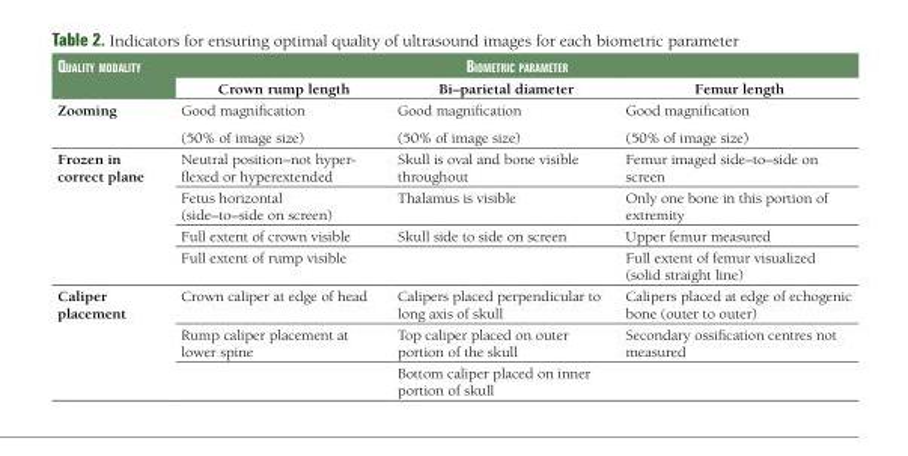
<table><thead><tr><td rowspan="2">Quality modality</td><td colspan="3">biometric parameter</td></tr><tr><td>Crown rump length</td><td>Bi–parietal diameter</td><td>Femur length</td></tr></thead><tbody><tr><td>Zooming</td><td>Good magnification (50% of image size)</td><td>Good magnification (50% of image size)</td><td>Good magnification (50% of image size)</td></tr><tr><td rowspan="4">Frozen in correct plane</td><td>Neutral position–not hyper- flexed or hyperextended</td><td>Skull is oval and bone visible throughout</td><td>Femur imaged side–to–side on screen</td></tr><tr><td>Fetus horizontal (side–to–side on screen)</td><td>Thalamus is visible</td><td>Only one bone in this portion of extremity</td></tr><tr><td>Full extent of crown visible</td><td>Skull side to side on screen</td><td>Upper femur measured</td></tr><tr><td>Full extent of rump visible</td><td></td><td>Full extent of femur visualized (solid straight line)</td></tr><tr><td rowspan="3">Caliper placement</td><td>Crown caliper at edge of head</td><td>Calipers placed perpendicular to long axis of skull</td><td>Calipers placed at edge of echogenic bone (outer to outer)</td></tr><tr><td>Rump caliper placement at lower spine</td><td>Top caliper placed on outer portion of the skull</td><td>Secondary ossification centres not measured</td></tr><tr><td></td><td>Bottom caliper placed on inner portion of skull</td><td></td></tr></tbody></table>